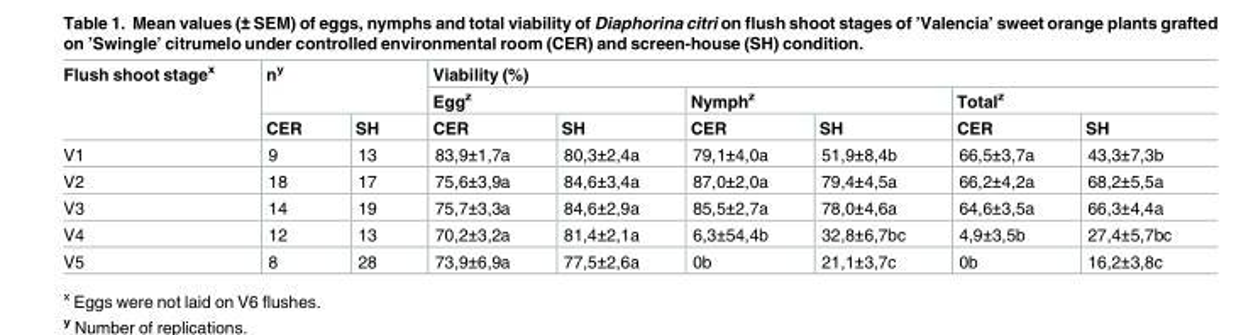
<table><thead><tr><td rowspan="3">Flush shoot stage<sup>x</sup></td><td rowspan="2" colspan="2">n<sup>y</sup></td><td colspan="6">Viability (%)</td></tr><tr><td colspan="2">Egg<sup>z</sup></td><td colspan="2">Nymph<sup>z</sup></td><td colspan="2">Total<sup>z</sup></td></tr><tr><td>CER</td><td>SH</td><td>CER</td><td>SH</td><td>CER</td><td>SH</td><td>CER</td><td>SH</td></tr></thead><tbody><tr><td>V1</td><td>9</td><td>13</td><td>83,9±1,7a</td><td>80,3±2,4a</td><td>79,1±4,0a</td><td>51,9±8,4b</td><td>66,5±3,7a</td><td>43,3±7,3b</td></tr><tr><td>V2</td><td>18</td><td>17</td><td>75,6±3,9a</td><td>84,6±3,4a</td><td>87,0±2,0a</td><td>79,4±4,5a</td><td>66,2±4,2a</td><td>68,2±5,5a</td></tr><tr><td>V3</td><td>14</td><td>19</td><td>75,7±3,3a</td><td>84,6±2,9a</td><td>85,5±2,7a</td><td>78,0±4,6a</td><td>64,6±3,5a</td><td>66,3±4,4a</td></tr><tr><td>V4</td><td>12</td><td>13</td><td>70,2±3,2a</td><td>81,4±2,1a</td><td>6,3±54,4b</td><td>32,8±6,7bc</td><td>4,9±3,5b</td><td>27,4±5,7bc</td></tr><tr><td>V5</td><td>8</td><td>28</td><td>73,9±6,9a</td><td>77,5±2,6a</td><td>0b</td><td>21,1±3,7c</td><td>0b</td><td>16,2±3,8c</td></tr></tbody></table>